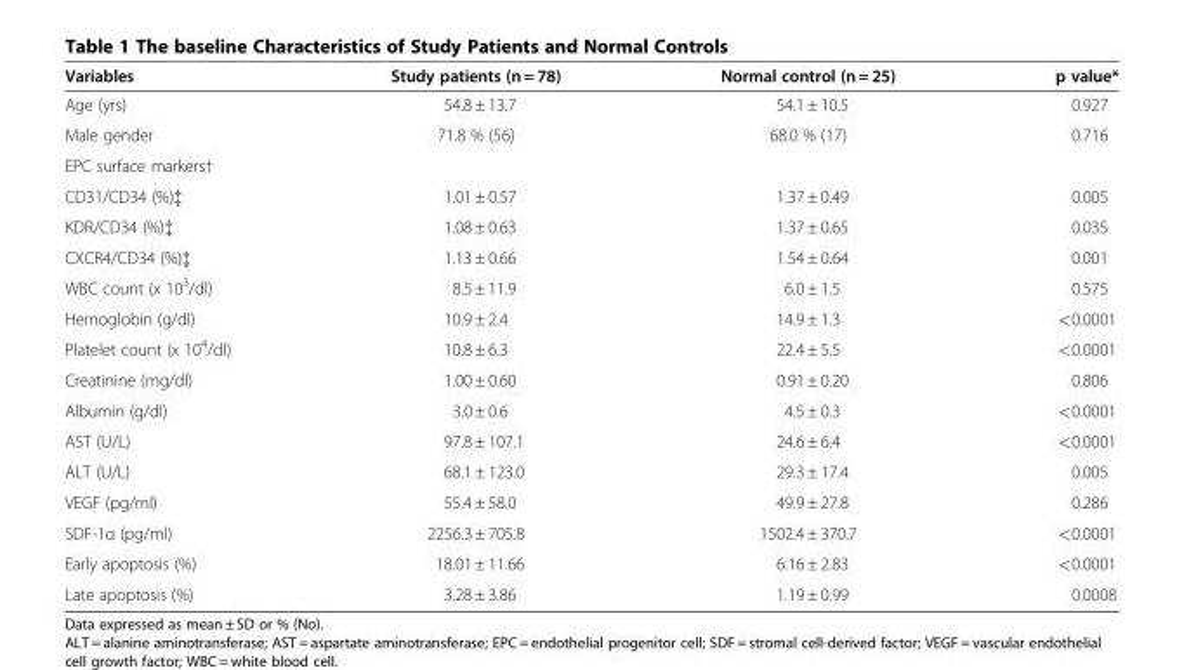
<table><thead><tr><td>Variables</td><td>Study patients (n = 78)</td><td>Normal control (n = 25)</td><td>p value*</td></tr></thead><tbody><tr><td>Age (yrs)</td><td>54.8 ± 13.7</td><td>54.1 ± 10.5</td><td>0.927</td></tr><tr><td>Male gender</td><td>71.8 % (56)</td><td>68.0 % (17)</td><td>0.716</td></tr><tr><td colspan="4">EPC surface markers†</td></tr><tr><td>CD31/CD34 (%)‡</td><td>1.01 ± 0.57</td><td>1.37 ± 0.49</td><td>0.005</td></tr><tr><td>KDR/CD34 (%)‡</td><td>1.08 ± 0.63</td><td>1.37 ± 0.65</td><td>0.035</td></tr><tr><td>CXCR4/CD34 (%)‡</td><td>1.13 ± 0.66</td><td>1.54 ± 0.64</td><td>0.001</td></tr><tr><td>WBC count (x 10<sup>3</sup>/dl)</td><td>8.5 ± 11.9</td><td>6.0 ± 1.5</td><td>0.575</td></tr><tr><td>Hemoglobin (g/dl)</td><td>10.9 ± 2.4</td><td>14.9 ± 1.3</td><td>&lt;0.0001</td></tr><tr><td>Platelet count (x 10<sup>4</sup>/dl)</td><td>10.8 ± 6.3</td><td>22.4 ± 5.5</td><td>&lt;0.0001</td></tr><tr><td>Creatinine (mg/dl)</td><td>1.00 ± 0.60</td><td>0.91 ± 0.20</td><td>0.806</td></tr><tr><td>Albumin (g/dl)</td><td>3.0 ± 0.6</td><td>4.5 ± 0.3</td><td>&lt;0.0001</td></tr><tr><td>AST (U/L)</td><td>97.8 ± 107.1</td><td>24.6 ± 6.4</td><td>&lt;0.0001</td></tr><tr><td>ALT (U/L)</td><td>68.1 ± 123.0</td><td>29.3 ± 17.4</td><td>0.005</td></tr><tr><td>VEGF (pg/ml)</td><td>55.4 ± 58.0</td><td>49.9 ± 27.8</td><td>0.286</td></tr><tr><td>SDF-1α (pg/ml)</td><td>2256.3 ± 705.8</td><td>1502.4 ± 370.7</td><td>&lt;0.0001</td></tr><tr><td>Early apoptosis (%)</td><td>18.01 ± 11.66</td><td>6.16 ± 2.83</td><td>&lt;0.0001</td></tr><tr><td>Late apoptosis (%)</td><td>3.28 ± 3.86</td><td>1.19 ± 0.99</td><td>0.0008</td></tr></tbody></table>